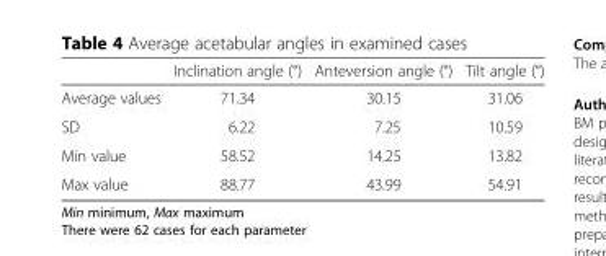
<table><thead><tr><td></td><td>Inclination angle (°)</td><td>Anteversion angle (°)</td><td>Tilt angle (°)</td></tr></thead><tbody><tr><td>Average values</td><td>71.34</td><td>30.15</td><td>31.06</td></tr><tr><td>SD</td><td>6.22</td><td>7.25</td><td>10.59</td></tr><tr><td>Min value</td><td>58.52</td><td>14.25</td><td>13.82</td></tr><tr><td>Max value</td><td>88.77</td><td>43.99</td><td>54.91</td></tr></tbody></table>